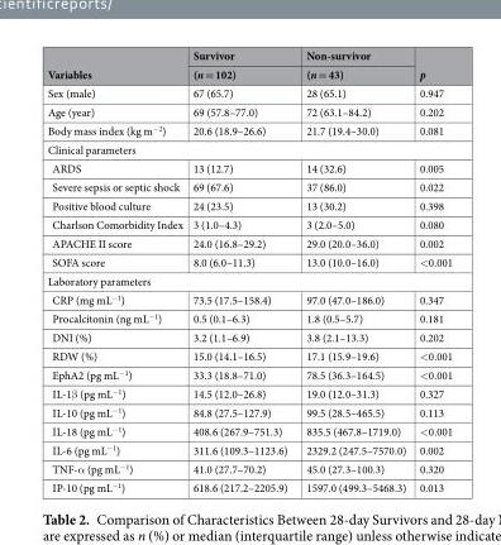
<table><thead><tr><td rowspan="2">Variables</td><td rowspan="2">Survivor (n = 102)</td><td rowspan="2">Non-survivor (n = 43)</td><td rowspan="2">p</td></tr><tr></tr></thead><tbody><tr><td>Sex (male)</td><td>67 (65.7)</td><td>28 (65.1)</td><td>0.947</td></tr><tr><td>Age (year)</td><td>69 (57.8–77.0)</td><td>72 (63.1–84.2)</td><td>0.202</td></tr><tr><td>Body mass index (kg m<sup>−2</sup>)</td><td>20.6 (18.9–26.6)</td><td>21.7 (19.4–30.0)</td><td>0.081</td></tr><tr><td colspan="4">Clinical parameters</td></tr><tr><td>ARDS</td><td>13 (12.7)</td><td>14 (32.6)</td><td>0.005</td></tr><tr><td>Severe sepsis or septic shock</td><td>69 (67.6)</td><td>37 (86.0)</td><td>0.022</td></tr><tr><td>Positive blood culture</td><td>24 (23.5)</td><td>13 (30.2)</td><td>0.398</td></tr><tr><td>Charlson Comorbidity Index</td><td>3 (1.0–4.3)</td><td>3 (2.0–5.0)</td><td>0.080</td></tr><tr><td>APACHE II score</td><td>24.0 (16.8–29.2)</td><td>29.0 (20.0–36.0)</td><td>0.002</td></tr><tr><td>SOFA score</td><td>8.0 (6.0–11.3)</td><td>13.0 (10.0–16.0)</td><td>&lt;0.001</td></tr><tr><td colspan="4">Laboratory parameters</td></tr><tr><td>CRP (mg mL<sup>−1</sup>)</td><td>73.5 (17.5–158.4)</td><td>97.0 (47.0–186.0)</td><td>0.347</td></tr><tr><td>Procalcitonin (ng mL<sup>−1</sup>)</td><td>0.5 (0.1–6.3)</td><td>1.8 (0.5–5.7)</td><td>0.181</td></tr><tr><td>DNI (%)</td><td>3.2 (1.1–6.9)</td><td>3.8 (2.1–13.3)</td><td>0.202</td></tr><tr><td>RDW (%)</td><td>15.0 (14.1–16.5)</td><td>17.1 (15.9–19.6)</td><td>&lt;0.001</td></tr><tr><td>EphA2 (pg mL<sup>−1</sup>)</td><td>33.3 (18.8–71.0)</td><td>78.5 (36.3–164.5)</td><td>&lt;0.001</td></tr><tr><td>IL-1β (pg mL<sup>−1</sup>)</td><td>14.5 (12.0–26.8)</td><td>19.0 (12.0–31.3)</td><td>0.327</td></tr><tr><td>IL-10 (pg mL<sup>−1</sup>)</td><td>84.8 (27.5–127.9)</td><td>99.5 (28.5–465.5)</td><td>0.113</td></tr><tr><td>IL-18 (pg mL<sup>−1</sup>)</td><td>408.6 (267.9–751.3)</td><td>835.5 (467.8–1719.0)</td><td>&lt;0.001</td></tr><tr><td>IL-6 (pg mL<sup>−1</sup>)</td><td>311.6 (109.3–1123.6)</td><td>2329.2 (247.5–7570.0)</td><td>0.002</td></tr><tr><td>TNF-α (pg mL<sup>−1</sup>)</td><td>41.0 (27.7–70.2)</td><td>45.0 (27.3–100.3)</td><td>0.320</td></tr><tr><td>IP-10 (pg mL<sup>−1</sup>)</td><td>618.6 (217.2–2205.9)</td><td>1597.0 (499.3–5468.3)</td><td>0.013</td></tr></tbody></table>